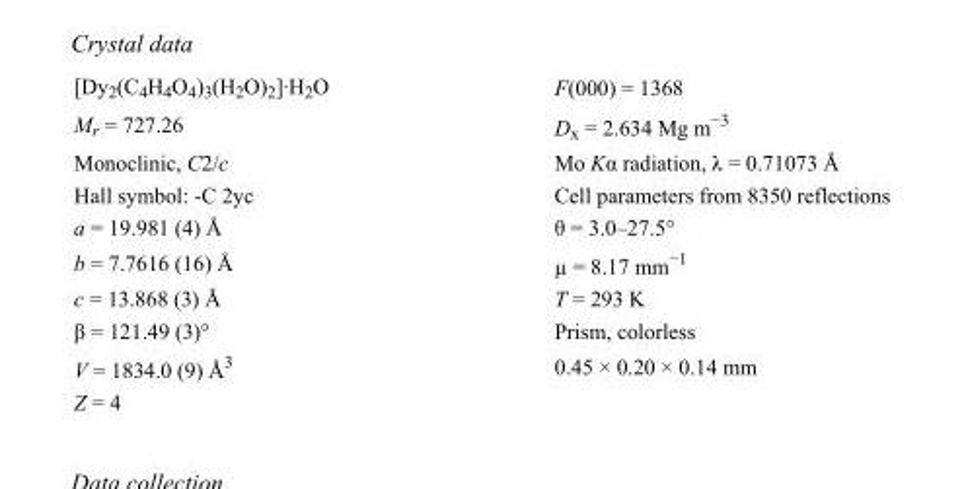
<table><tbody><tr><td>[Dy<sub>2</sub>(C<sub>4</sub>H<sub>4</sub>O<sub>4</sub>)<sub>3</sub>(H<sub>2</sub>O)<sub>2</sub>]·H<sub>2</sub>O</td><td>F(000) = 1368</td></tr><tr><td>M<sub>r</sub> = 727.26</td><td>D<sub>x</sub> = 2.634 Mg m<sup>−3</sup></td></tr><tr><td>Monoclinic, C2/c</td><td>Mo Kα radiation, λ = 0.71073 Å</td></tr><tr><td>Hall symbol: -C 2yc</td><td>Cell parameters from 8350 reflections</td></tr><tr><td>a = 19.981 (4) Å</td><td>θ = 3.0–27.5°</td></tr><tr><td>b = 7.7616 (16) Å</td><td>µ = 8.17 mm<sup>−1</sup></td></tr><tr><td>c = 13.868 (3) Å</td><td>T = 293 K</td></tr><tr><td>β = 121.49 (3)°</td><td>Prism, colorless</td></tr><tr><td>V = 1834.0 (9) Å<sup>3</sup></td><td>0.45 × 0.20 × 0.14 mm</td></tr><tr><td>Z = 4</td><td></td></tr></tbody></table>